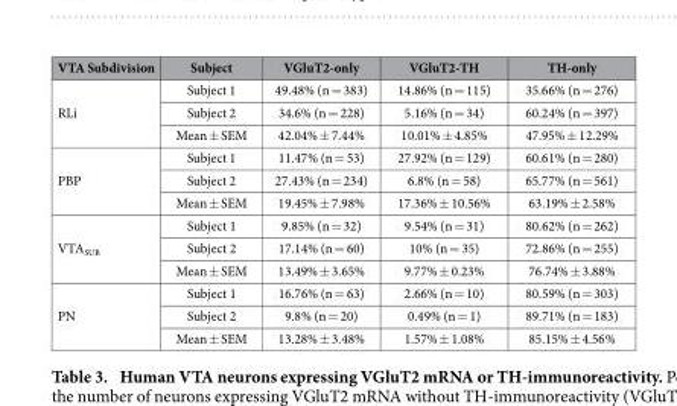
<table><thead><tr><td>VTA Subdivision</td><td>Subject</td><td>VGluT2-only</td><td>VGluT2-TH</td><td>TH-only</td></tr></thead><tbody><tr><td rowspan="3">RLi</td><td>Subject 1</td><td>49.48% (n = 383)</td><td>14.86% (n = 115)</td><td>35.66% (n = 276)</td></tr><tr><td>Subject 2</td><td>34.6% (n = 228)</td><td>5.16% (n = 34)</td><td>60.24% (n = 397)</td></tr><tr><td>Mean ± SEM</td><td>42.04% ± 7.44%</td><td>10.01% ± 4.85%</td><td>47.95% ± 12.29%</td></tr><tr><td rowspan="3">PBP</td><td>Subject 1</td><td>11.47% (n = 53)</td><td>27.92% (n = 129)</td><td>60.61% (n = 280)</td></tr><tr><td>Subject 2</td><td>27.43% (n = 234)</td><td>6.8% (n = 58)</td><td>65.77% (n = 561)</td></tr><tr><td>Mean ± SEM</td><td>19.45% ± 7.98%</td><td>17.36% ± 10.56%</td><td>63.19% ± 2.58%</td></tr><tr><td rowspan="3">VTA<sub>SUB</sub></td><td>Subject 1</td><td>9.85% (n = 32)</td><td>9.54% (n = 31)</td><td>80.62% (n = 262)</td></tr><tr><td>Subject 2</td><td>17.14% (n = 60)</td><td>10% (n = 35)</td><td>72.86% (n = 255)</td></tr><tr><td>Mean ± SEM</td><td>13.49% ± 3.65%</td><td>9.77% ± 0.23%</td><td>76.74% ± 3.88%</td></tr><tr><td rowspan="3">PN</td><td>Subject 1</td><td>16.76% (n = 63)</td><td>2.66% (n = 10)</td><td>80.59% (n = 303)</td></tr><tr><td>Subject 2</td><td>9.8% (n = 20)</td><td>0.49% (n = 1)</td><td>89.71% (n = 183)</td></tr><tr><td>Mean ± SEM</td><td>13.28% ± 3.48%</td><td>1.57% ± 1.08%</td><td>85.15% ± 4.56%</td></tr></tbody></table>